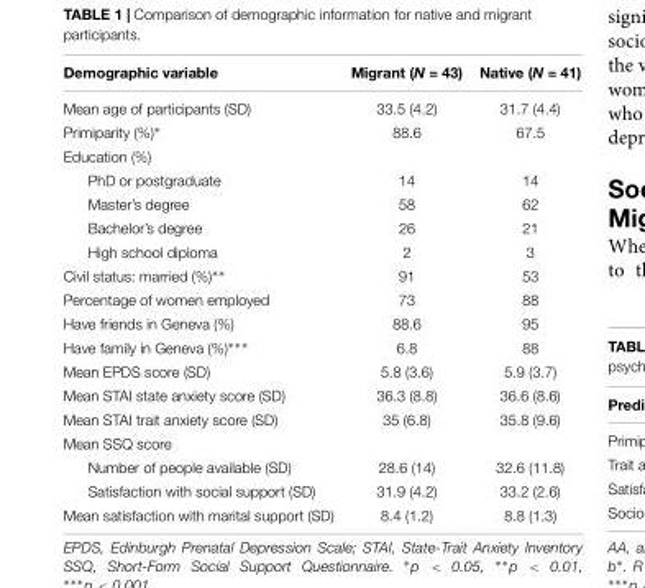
<table><thead><tr><td>Demographic variable</td><td>Migrant (N = 43)</td><td>Native (N = 41)</td></tr></thead><tbody><tr><td>Mean age of participants (SD)</td><td>33.5 (4.2)</td><td>31.7 (4.4)</td></tr><tr><td>Primiparity (%)∗</td><td>88.6</td><td>67.5</td></tr><tr><td colspan="3">Education (%)</td></tr><tr><td>PhD or postgraduate</td><td>14</td><td>14</td></tr><tr><td>Master’s degree</td><td>58</td><td>62</td></tr><tr><td>Bachelor’s degree</td><td>26</td><td>21</td></tr><tr><td>High school diploma</td><td>2</td><td>3</td></tr><tr><td>Civil status: married (%)∗∗</td><td>91</td><td>53</td></tr><tr><td>Percentage of women employed</td><td>73</td><td>88</td></tr><tr><td>Have friends in Geneva (%)</td><td>88.6</td><td>95</td></tr><tr><td>Have family in Geneva (%)∗∗∗</td><td>6.8</td><td>88</td></tr><tr><td>Mean EPDS score (SD)</td><td>5.8 (3.6)</td><td>5.9 (3.7)</td></tr><tr><td>Mean STAI state anxiety score (SD)</td><td>36.3 (8.8)</td><td>36.6 (8.6)</td></tr><tr><td>Mean STAI trait anxiety score (SD)</td><td>35 (6.8)</td><td>35.8 (9.6)</td></tr><tr><td colspan="3">Mean SSQ score</td></tr><tr><td>Number of people available (SD)</td><td>28.6 (14)</td><td>32.6 (11.8)</td></tr><tr><td>Satisfaction with social support (SD)</td><td>31.9 (4.2)</td><td>33.2 (2.6)</td></tr><tr><td>Mean satisfaction with marital support (SD)</td><td>8.4 (1.2)</td><td>8.8 (1.3)</td></tr></tbody></table>